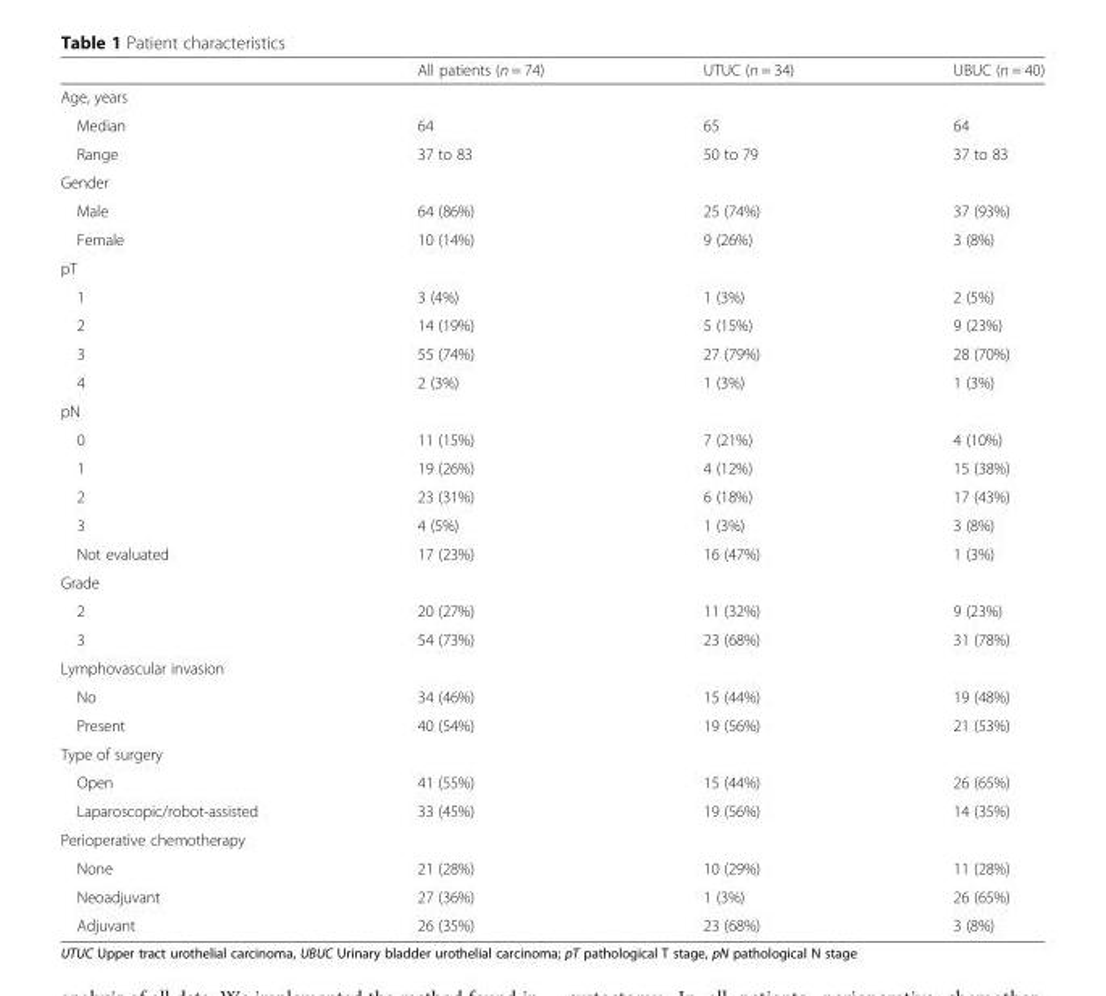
<table><thead><tr><td></td><td>All patients (n = 74)</td><td>UTUC (n = 34)</td><td>UBUC (n = 40)</td></tr></thead><tbody><tr><td colspan="4">Age, years</td></tr><tr><td>Median</td><td>64</td><td>65</td><td>64</td></tr><tr><td>Range</td><td>37 to 83</td><td>50 to 79</td><td>37 to 83</td></tr><tr><td colspan="4">Gender</td></tr><tr><td>Male</td><td>64 (86%)</td><td>25 (74%)</td><td>37 (93%)</td></tr><tr><td>Female</td><td>10 (14%)</td><td>9 (26%)</td><td>3 (8%)</td></tr><tr><td colspan="4">pT</td></tr><tr><td>1</td><td>3 (4%)</td><td>1 (3%)</td><td>2 (5%)</td></tr><tr><td>2</td><td>14 (19%)</td><td>5 (15%)</td><td>9 (23%)</td></tr><tr><td>3</td><td>55 (74%)</td><td>27 (79%)</td><td>28 (70%)</td></tr><tr><td>4</td><td>2 (3%)</td><td>1 (3%)</td><td>1 (3%)</td></tr><tr><td colspan="4">pN</td></tr><tr><td>0</td><td>11 (15%)</td><td>7 (21%)</td><td>4 (10%)</td></tr><tr><td>1</td><td>19 (26%)</td><td>4 (12%)</td><td>15 (38%)</td></tr><tr><td>2</td><td>23 (31%)</td><td>6 (18%)</td><td>17 (43%)</td></tr><tr><td>3</td><td>4 (5%)</td><td>1 (3%)</td><td>3 (8%)</td></tr><tr><td>Not evaluated</td><td>17 (23%)</td><td>16 (47%)</td><td>1 (3%)</td></tr><tr><td colspan="4">Grade</td></tr><tr><td>2</td><td>20 (27%)</td><td>11 (32%)</td><td>9 (23%)</td></tr><tr><td>3</td><td>54 (73%)</td><td>23 (68%)</td><td>31 (78%)</td></tr><tr><td colspan="4">Lymphovascular invasion</td></tr><tr><td>No</td><td>34 (46%)</td><td>15 (44%)</td><td>19 (48%)</td></tr><tr><td>Present</td><td>40 (54%)</td><td>19 (56%)</td><td>21 (53%)</td></tr><tr><td colspan="4">Type of surgery</td></tr><tr><td>Open</td><td>41 (55%)</td><td>15 (44%)</td><td>26 (65%)</td></tr><tr><td>Laparoscopic/robot-assisted</td><td>33 (45%)</td><td>19 (56%)</td><td>14 (35%)</td></tr><tr><td colspan="4">Perioperative chemotherapy</td></tr><tr><td>None</td><td>21 (28%)</td><td>10 (29%)</td><td>11 (28%)</td></tr><tr><td>Neoadjuvant</td><td>27 (36%)</td><td>1 (3%)</td><td>26 (65%)</td></tr><tr><td>Adjuvant</td><td>26 (35%)</td><td>23 (68%)</td><td>3 (8%)</td></tr></tbody></table>